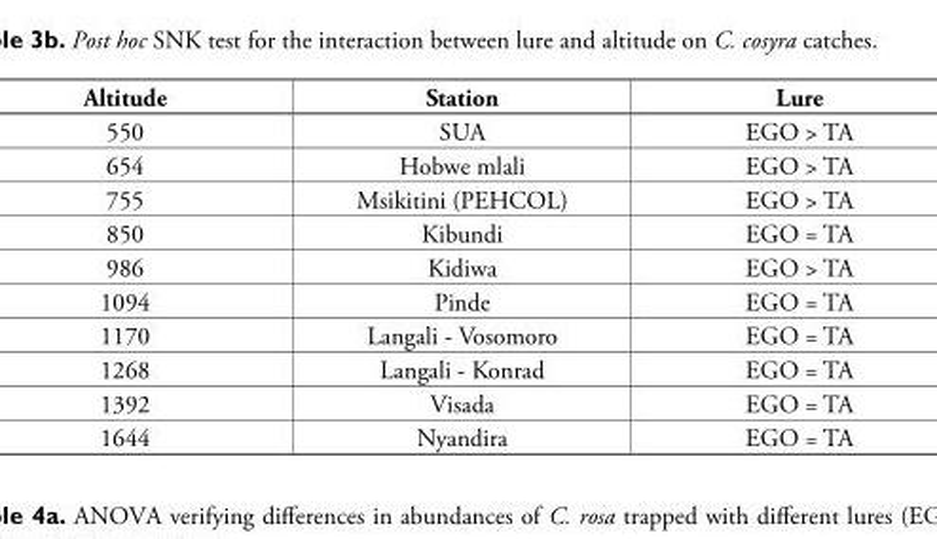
<table><thead><tr><td>Altitude</td><td>Station</td><td>Lure</td></tr></thead><tbody><tr><td>550</td><td>SUA</td><td>EGO &gt; TA</td></tr><tr><td>654</td><td>Hobwe mlali</td><td>EGO &gt; TA</td></tr><tr><td>755</td><td>Msikitini (PEHCOL)</td><td>EGO &gt; TA</td></tr><tr><td>850</td><td>Kibundi</td><td>EGO = TA</td></tr><tr><td>986</td><td>Kidiwa</td><td>EGO &gt; TA</td></tr><tr><td>1094</td><td>Pinde</td><td>EGO = TA</td></tr><tr><td>1170</td><td>Langali - Vosomoro</td><td>EGO = TA</td></tr><tr><td>1268</td><td>Langali - Konrad</td><td>EGO = TA</td></tr><tr><td>1392</td><td>Visada</td><td>EGO = TA</td></tr><tr><td>1644</td><td>Nyandira</td><td>EGO = TA</td></tr></tbody></table>